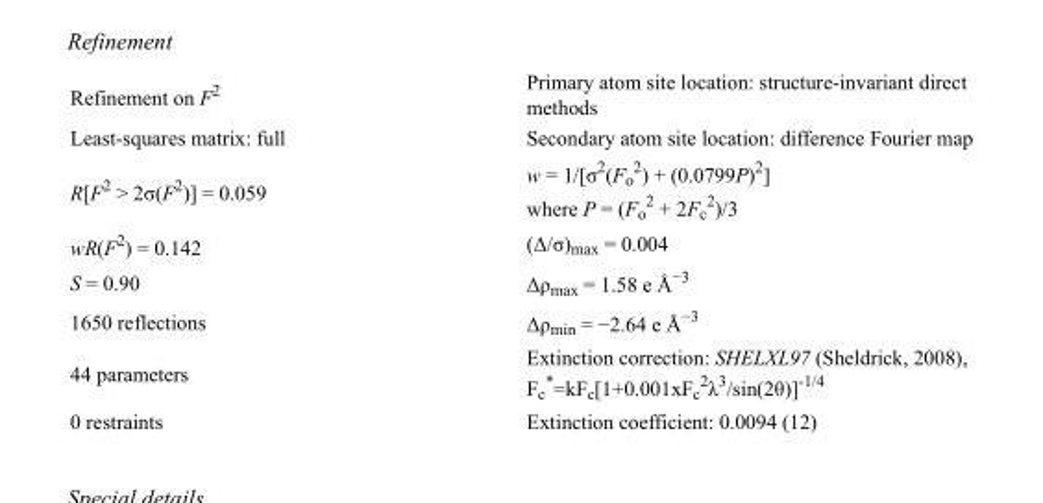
<table><tbody><tr><td>Refinement on F<sup>2</sup></td><td>Primary atom site location: structure-invariant direct methods</td></tr><tr><td>Least-squares matrix: full</td><td>Secondary atom site location: difference Fourier map</td></tr><tr><td>R[F<sup>2</sup> &gt; 2σ(F<sup>2</sup>)] = 0.059</td><td>w = 1/[σ<sup>2</sup>(F<sub>o</sub> <sup>2</sup>) + (0.0799P)<sup>2</sup>] where P = (F<sub>o</sub> <sup>2</sup> + 2F<sub>c</sub> <sup>2</sup>)/3</td></tr><tr><td>wR(F<sup>2</sup>) = 0.142</td><td>(Δ/σ)<sub>max</sub> = 0.004</td></tr><tr><td>S = 0.90</td><td>Δρ<sub>max</sub> = 1.58 e Å<sup>−3</sup></td></tr><tr><td>1650 reflections</td><td>Δρ<sub>min</sub> = −2.64 e Å<sup>−3</sup></td></tr><tr><td>44 parameters</td><td>Extinction correction: SHELXL97 (Sheldrick, 2008), F<sub>c</sub> *=kF<sub>c</sub>[1+0.001xF<sub>c</sub> <sup>2</sup>λ<sup>3</sup>/sin(2θ)]<sup>-1/4</sup></td></tr><tr><td>0 restraints</td><td>Extinction coefficient: 0.0094 (12)</td></tr></tbody></table>